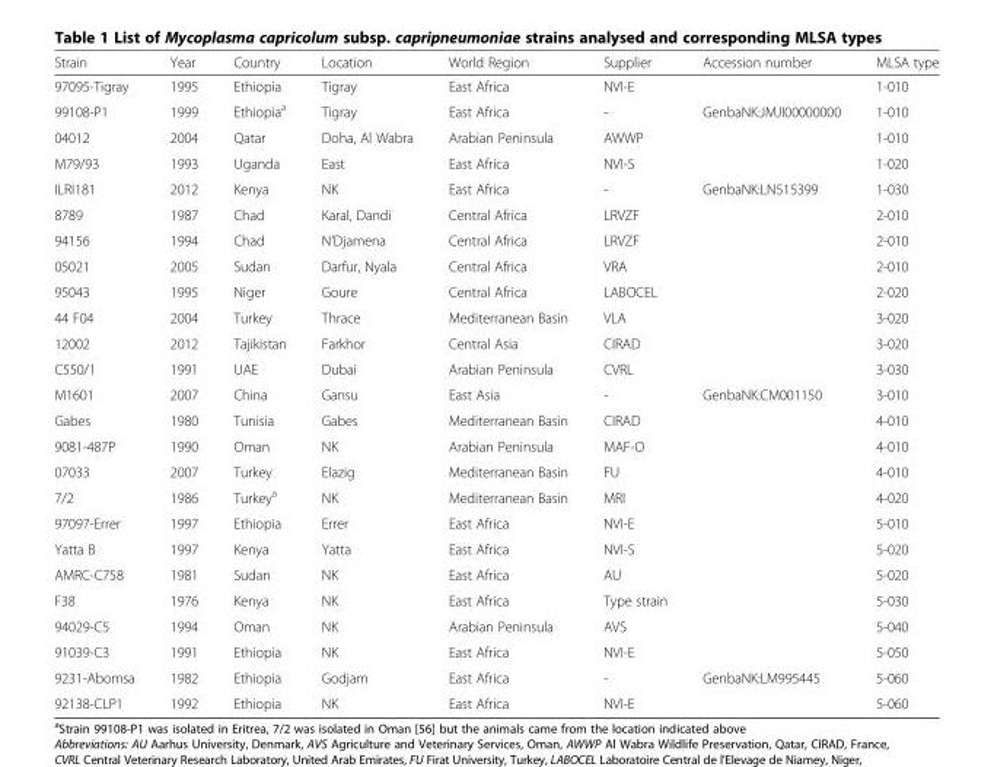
<table><thead><tr><td>Strain</td><td>Year</td><td>Country</td><td>Location</td><td>World Region</td><td>Supplier</td><td>Accession number</td><td>MLSA type</td></tr></thead><tbody><tr><td>97095-Tigray</td><td>1995</td><td>Ethiopia</td><td>Tigray</td><td>East Africa</td><td>NVI-E</td><td></td><td>1-010</td></tr><tr><td>99108-P1</td><td>1999</td><td>Ethiopia<sup>a</sup></td><td>Tigray</td><td>East Africa</td><td>-</td><td>GenbaNK:JMJI00000000</td><td>1-010</td></tr><tr><td>04012</td><td>2004</td><td>Qatar</td><td>Doha, Al Wabra</td><td>Arabian Peninsula</td><td>AWWP</td><td></td><td>1-010</td></tr><tr><td>M79/93</td><td>1993</td><td>Uganda</td><td>East</td><td>East Africa</td><td>NVI-S</td><td></td><td>1-020</td></tr><tr><td>ILRI181</td><td>2012</td><td>Kenya</td><td>NK</td><td>East Africa</td><td>-</td><td>GenbaNK:LN515399</td><td>1-030</td></tr><tr><td>8789</td><td>1987</td><td>Chad</td><td>Karal, Dandi</td><td>Central Africa</td><td>LRVZF</td><td></td><td>2-010</td></tr><tr><td>94156</td><td>1994</td><td>Chad</td><td>N’Djamena</td><td>Central Africa</td><td>LRVZF</td><td></td><td>2-010</td></tr><tr><td>05021</td><td>2005</td><td>Sudan</td><td>Darfur, Nyala</td><td>Central Africa</td><td>VRA</td><td></td><td>2-010</td></tr><tr><td>95043</td><td>1995</td><td>Niger</td><td>Goure</td><td>Central Africa</td><td>LABOCEL</td><td></td><td>2-020</td></tr><tr><td>44 F04</td><td>2004</td><td>Turkey</td><td>Thrace</td><td>Mediterranean Basin</td><td>VLA</td><td></td><td>3-020</td></tr><tr><td>12002</td><td>2012</td><td>Tajikistan</td><td>Farkhor</td><td>Central Asia</td><td>CIRAD</td><td></td><td>3-020</td></tr><tr><td>C550/1</td><td>1991</td><td>UAE</td><td>Dubai</td><td>Arabian Peninsula</td><td>CVRL</td><td></td><td>3-030</td></tr><tr><td>M1601</td><td>2007</td><td>China</td><td>Gansu</td><td>East Asia</td><td>-</td><td>GenbaNK:CM001150</td><td>3-010</td></tr><tr><td>Gabes</td><td>1980</td><td>Tunisia</td><td>Gabes</td><td>Mediterranean Basin</td><td>CIRAD</td><td></td><td>4-010</td></tr><tr><td>9081-487P</td><td>1990</td><td>Oman</td><td>NK</td><td>Arabian Peninsula</td><td>MAF-O</td><td></td><td>4-010</td></tr><tr><td>07033</td><td>2007</td><td>Turkey</td><td>Elazig</td><td>Mediterranean Basin</td><td>FU</td><td></td><td>4-010</td></tr><tr><td>7/2</td><td>1986</td><td>Turkey<sup>a</sup></td><td>NK</td><td>Mediterranean Basin</td><td>MRI</td><td></td><td>4-020</td></tr><tr><td>97097-Errer</td><td>1997</td><td>Ethiopia</td><td>Errer</td><td>East Africa</td><td>NVI-E</td><td></td><td>5-010</td></tr><tr><td>Yatta B</td><td>1997</td><td>Kenya</td><td>Yatta</td><td>East Africa</td><td>NVI-S</td><td></td><td>5-020</td></tr><tr><td>AMRC-C758</td><td>1981</td><td>Sudan</td><td>NK</td><td>East Africa</td><td>AU</td><td></td><td>5-020</td></tr><tr><td>F38</td><td>1976</td><td>Kenya</td><td>NK</td><td>East Africa</td><td>Type strain</td><td></td><td>5-030</td></tr><tr><td>94029-C5</td><td>1994</td><td>Oman</td><td>NK</td><td>Arabian Peninsula</td><td>AVS</td><td></td><td>5-040</td></tr><tr><td>91039-C3</td><td>1991</td><td>Ethiopia</td><td>NK</td><td>East Africa</td><td>NVI-E</td><td></td><td>5-050</td></tr><tr><td>9231-Abomsa</td><td>1982</td><td>Ethiopia</td><td>Godjam</td><td>East Africa</td><td>-</td><td>GenbaNK:LM995445</td><td>5-060</td></tr><tr><td>92138-CLP1</td><td>1992</td><td>Ethiopia</td><td>NK</td><td>East Africa</td><td>NVI-E</td><td></td><td>5-060</td></tr></tbody></table>